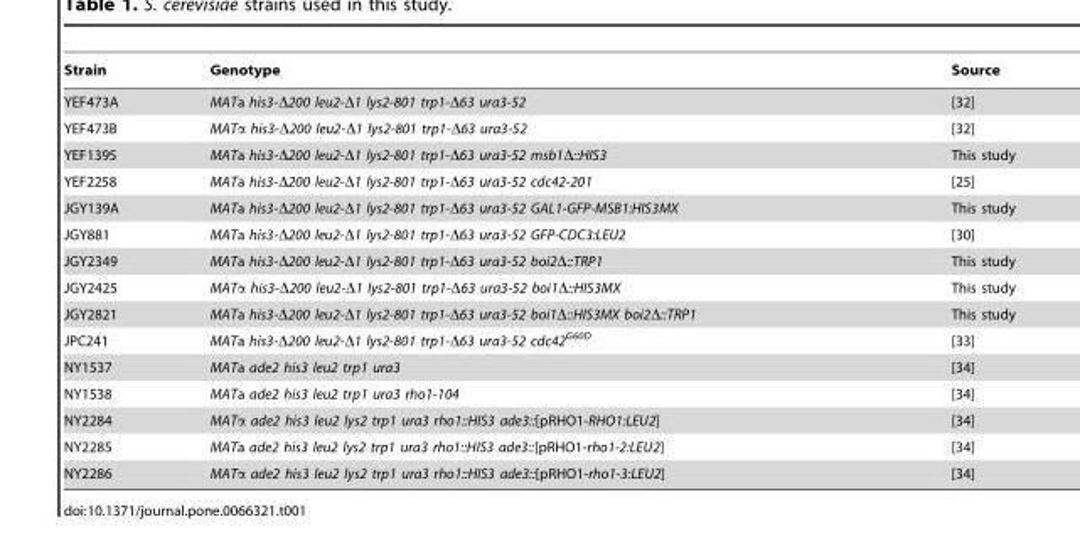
<table><thead><tr><td>Strain</td><td>Genotype</td><td>Source</td></tr></thead><tbody><tr><td>YEF473A</td><td>MATa his3-Δ200 leu2-Δ1 lys2-801 trp1-Δ63 ura3-52</td><td>[32]</td></tr><tr><td>YEF473B</td><td>MATα his3-Δ200 leu2-Δ1 lys2-801 trp1-Δ63 ura3-52</td><td>[32]</td></tr><tr><td>YEF1395</td><td>MATa his3-Δ200 leu2-Δ1 lys2-801 trp1-Δ63 ura3-52 msb1Δ::HIS3</td><td>This study</td></tr><tr><td>YEF2258</td><td>MATa his3-Δ200 leu2-Δ1 lys2-801 trp1-Δ63 ura3-52 cdc42-201</td><td>[25]</td></tr><tr><td>JGY139A</td><td>MATa his3-Δ200 leu2-Δ1 lys2-801 trp1-Δ63 ura3-52 GAL1-GFP-MSB1:HIS3MX</td><td>This study</td></tr><tr><td>JGY881</td><td>MATa his3-Δ200 leu2-Δ1 lys2-801 trp1-Δ63 ura3-52 GFP-CDC3:LEU2</td><td>[30]</td></tr><tr><td>JGY2349</td><td>MATa his3-Δ200 leu2-Δ1 lys2-801 trp1-Δ63 ura3-52 boi2Δ::TRP1</td><td>This study</td></tr><tr><td>JGY2425</td><td>MATα his3-Δ200 leu2-Δ1 lys2-801 trp1-Δ63 ura3-52 boi1Δ::HIS3MX</td><td>This study</td></tr><tr><td>JGY2821</td><td>MATa his3-Δ200 leu2-Δ1 lys2-801 trp1-Δ63 ura3-52 boi1Δ::HIS3MX boi2Δ::TRP1</td><td>This study</td></tr><tr><td>JPC241</td><td>MATa his3-Δ200 leu2-Δ1 lys2-801 trp1-Δ63 ura3-52 cdc42<sup>G60D</sup></td><td>[33]</td></tr><tr><td>NY1537</td><td>MATa ade2 his3 leu2 trp1 ura3</td><td>[34]</td></tr><tr><td>NY1538</td><td>MATa ade2 his3 leu2 trp1 ura3 rho1-104</td><td>[34]</td></tr><tr><td>NY2284</td><td>MATα ade2 his3 leu2 lys2 trp1 ura3 rho1::HIS3 ade3::[pRHO1-RHO1:LEU2]</td><td>[34]</td></tr><tr><td>NY2285</td><td>MATa ade2 his3 leu2 lys2 trp1 ura3 rho1::HIS3 ade3::[pRHO1-rho1-2:LEU2]</td><td>[34]</td></tr><tr><td>NY2286</td><td>MATα ade2 his3 leu2 lys2 trp1 ura3 rho1::HIS3 ade3::[pRHO1-rho1-3:LEU2]</td><td>[34]</td></tr></tbody></table>